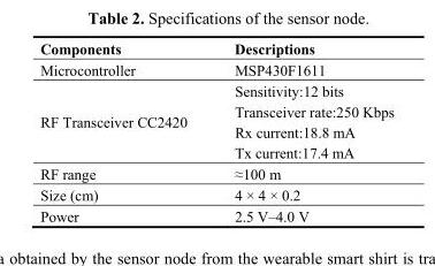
<table><thead><tr><td>Components</td><td>Descriptions</td></tr></thead><tbody><tr><td>Microcontroller</td><td>MSP430F1611</td></tr><tr><td>RF Transceiver CC2420</td><td>Sensitivity:12 bits Transceiver rate:250 Kbps Rx current:18.8 mA Tx current:17.4 mA</td></tr><tr><td>RF range</td><td>≈100 m</td></tr><tr><td>Size (cm)</td><td>4 × 4 × 0.2</td></tr><tr><td>Power</td><td>2.5 V–4.0 V</td></tr></tbody></table>